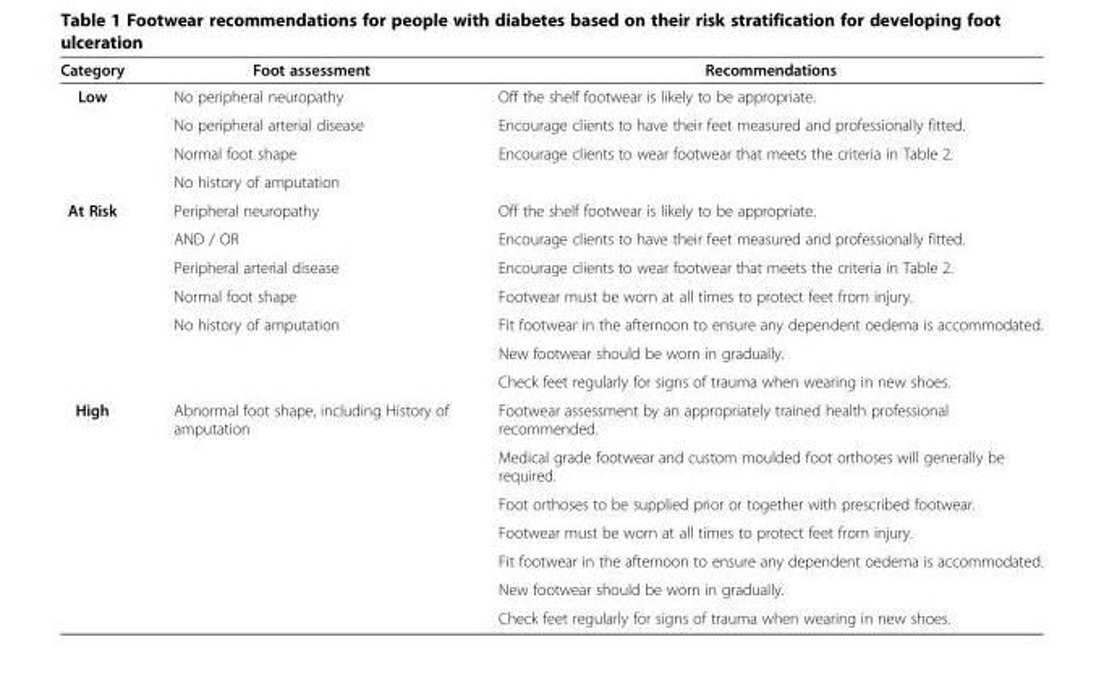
<table><thead><tr><td>Category</td><td>Foot assessment</td><td>Recommendations</td></tr></thead><tbody><tr><td rowspan="4">Low</td><td>No peripheral neuropathy</td><td>Off the shelf footwear is likely to be appropriate.</td></tr><tr><td>No peripheral arterial disease</td><td>Encourage clients to have their feet measured and professionally fitted.</td></tr><tr><td>Normal foot shape</td><td>Encourage clients to wear footwear that meets the criteria in Table 2.</td></tr><tr><td>No history of amputation</td><td></td></tr><tr><td rowspan="7">At Risk</td><td>Peripheral neuropathy</td><td>Off the shelf footwear is likely to be appropriate.</td></tr><tr><td>AND / OR</td><td>Encourage clients to have their feet measured and professionally fitted.</td></tr><tr><td>Peripheral arterial disease</td><td>Encourage clients to wear footwear that meets the criteria in Table 2.</td></tr><tr><td>Normal foot shape</td><td>Footwear must be worn at all times to protect feet from injury.</td></tr><tr><td>No history of amputation</td><td>Fit footwear in the afternoon to ensure any dependent oedema is accommodated.</td></tr><tr><td></td><td>New footwear should be worn in gradually.</td></tr><tr><td></td><td>Check feet regularly for signs of trauma when wearing in new shoes.</td></tr><tr><td rowspan="7">High</td><td>Abnormal foot shape, including History of amputation</td><td>Footwear assessment by an appropriately trained health professional recommended.</td></tr><tr><td></td><td>Medical grade footwear and custom moulded foot orthoses will generally be required.</td></tr><tr><td></td><td>Foot orthoses to be supplied prior or together with prescribed footwear.</td></tr><tr><td></td><td>Footwear must be worn at all times to protect feet from injury.</td></tr><tr><td></td><td>Fit footwear in the afternoon to ensure any dependent oedema is accommodated.</td></tr><tr><td></td><td>New footwear should be worn in gradually.</td></tr><tr><td></td><td>Check feet regularly for signs of trauma when wearing in new shoes.</td></tr></tbody></table>